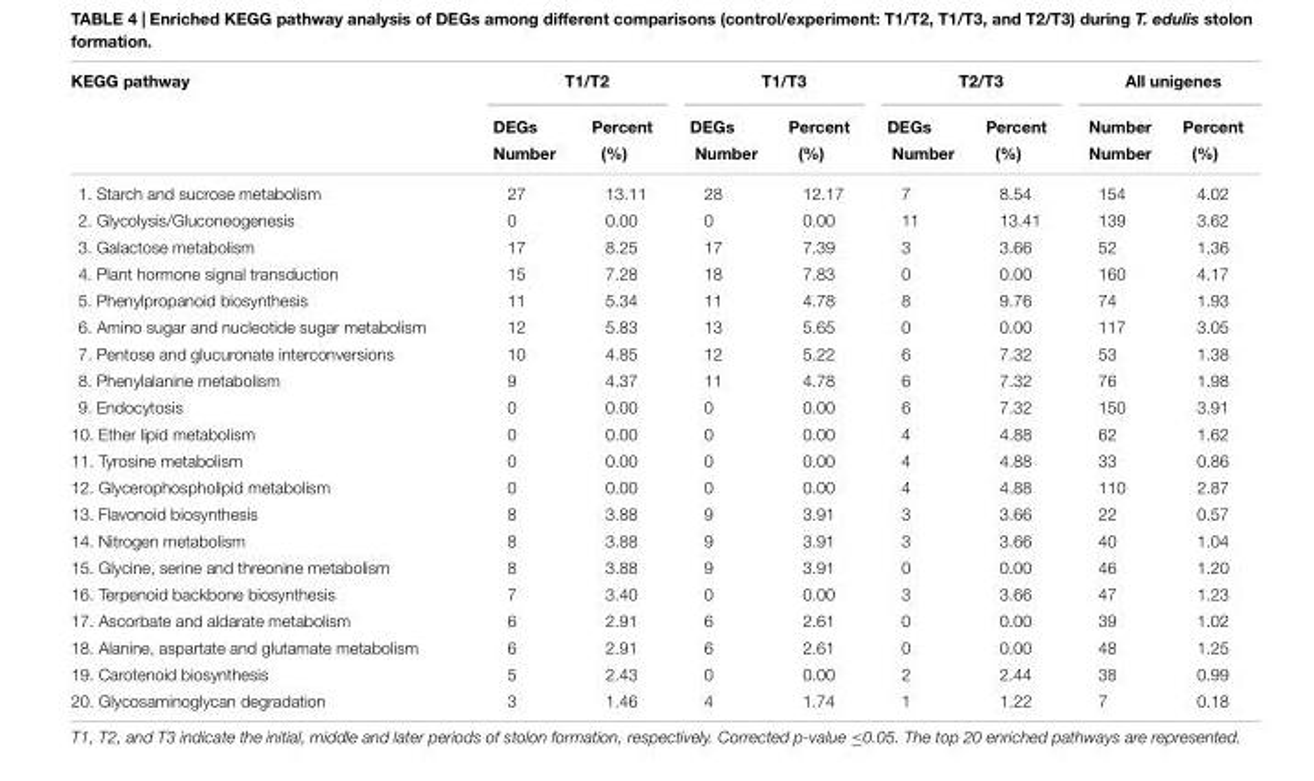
<table><thead><tr><td rowspan="3">KEGG pathway</td><td colspan="2">T1/T2</td><td colspan="2">T1/T3</td><td colspan="2">T2/T3</td><td colspan="2">All unigenes</td></tr><tr><td rowspan="2">DEGs Number</td><td rowspan="2">Percent (%)</td><td rowspan="2">DEGs Number</td><td rowspan="2">Percent (%)</td><td rowspan="2">DEGs Number</td><td rowspan="2">Percent (%)</td><td rowspan="2">Number Number</td><td rowspan="2">Percent (%)</td></tr><tr></tr></thead><tbody><tr><td>1. Starch and sucrose metabolism</td><td>27</td><td>13.11</td><td>28</td><td>12.17</td><td>7</td><td>8.54</td><td>154</td><td>4.02</td></tr><tr><td>2. Glycolysis/Gluconeogenesis</td><td>0</td><td>0.00</td><td>0</td><td>0.00</td><td>11</td><td>13.41</td><td>139</td><td>3.62</td></tr><tr><td>3. Galactose metabolism</td><td>17</td><td>8.25</td><td>17</td><td>7.39</td><td>3</td><td>3.66</td><td>52</td><td>1.36</td></tr><tr><td>4. Plant hormone signal transduction</td><td>15</td><td>7.28</td><td>18</td><td>7.83</td><td>0</td><td>0.00</td><td>160</td><td>4.17</td></tr><tr><td>5. Phenylpropanoid biosynthesis</td><td>11</td><td>5.34</td><td>11</td><td>4.78</td><td>8</td><td>9.76</td><td>74</td><td>1.93</td></tr><tr><td>6. Amino sugar and nucleotide sugar metabolism</td><td>12</td><td>5.83</td><td>13</td><td>5.65</td><td>0</td><td>0.00</td><td>117</td><td>3.05</td></tr><tr><td>7. Pentose and glucuronate interconversions</td><td>10</td><td>4.85</td><td>12</td><td>5.22</td><td>6</td><td>7.32</td><td>53</td><td>1.38</td></tr><tr><td>8. Phenylalanine metabolism</td><td>9</td><td>4.37</td><td>11</td><td>4.78</td><td>6</td><td>7.32</td><td>76</td><td>1.98</td></tr><tr><td>9. Endocytosis</td><td>0</td><td>0.00</td><td>0</td><td>0.00</td><td>6</td><td>7.32</td><td>150</td><td>3.91</td></tr><tr><td>10. Ether lipid metabolism</td><td>0</td><td>0.00</td><td>0</td><td>0.00</td><td>4</td><td>4.88</td><td>62</td><td>1.62</td></tr><tr><td>11. Tyrosine metabolism</td><td>0</td><td>0.00</td><td>0</td><td>0.00</td><td>4</td><td>4.88</td><td>33</td><td>0.86</td></tr><tr><td>12. Glycerophospholipid metabolism</td><td>0</td><td>0.00</td><td>0</td><td>0.00</td><td>4</td><td>4.88</td><td>110</td><td>2.87</td></tr><tr><td>13. Flavonoid biosynthesis</td><td>8</td><td>3.88</td><td>9</td><td>3.91</td><td>3</td><td>3.66</td><td>22</td><td>0.57</td></tr><tr><td>14. Nitrogen metabolism</td><td>8</td><td>3.88</td><td>9</td><td>3.91</td><td>3</td><td>3.66</td><td>40</td><td>1.04</td></tr><tr><td>15. Glycine, serine and threonine metabolism</td><td>8</td><td>3.88</td><td>9</td><td>3.91</td><td>0</td><td>0.00</td><td>46</td><td>1.20</td></tr><tr><td>16. Terpenoid backbone biosynthesis</td><td>7</td><td>3.40</td><td>0</td><td>0.00</td><td>3</td><td>3.66</td><td>47</td><td>1.23</td></tr><tr><td>17. Ascorbate and aldarate metabolism</td><td>6</td><td>2.91</td><td>6</td><td>2.61</td><td>0</td><td>0.00</td><td>39</td><td>1.02</td></tr><tr><td>18. Alanine, aspartate and glutamate metabolism</td><td>6</td><td>2.91</td><td>6</td><td>2.61</td><td>0</td><td>0.00</td><td>48</td><td>1.25</td></tr><tr><td>19. Carotenoid biosynthesis</td><td>5</td><td>2.43</td><td>0</td><td>0.00</td><td>2</td><td>2.44</td><td>38</td><td>0.99</td></tr><tr><td>20. Glycosaminoglycan degradation</td><td>3</td><td>1.46</td><td>4</td><td>1.74</td><td>1</td><td>1.22</td><td>7</td><td>0.18</td></tr></tbody></table>